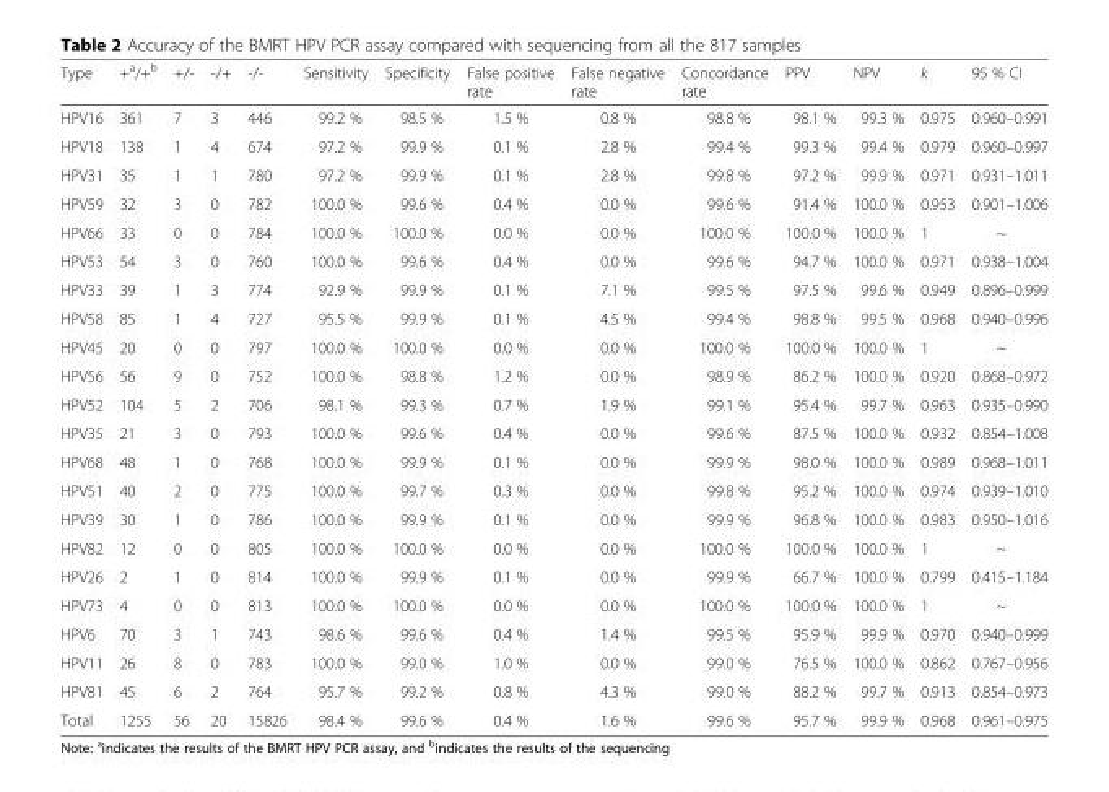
<table><thead><tr><td>Type</td><td>+<sup>a</sup>/+<sup>b</sup></td><td>+/-</td><td>-/+</td><td>-/-</td><td>Sensitivity</td><td>Specificity</td><td>False positive rate</td><td>False negative rate</td><td>Concordance rate</td><td>PPV</td><td>NPV</td><td>k</td><td>95 % CI</td></tr></thead><tbody><tr><td>HPV16</td><td>361</td><td>7</td><td>3</td><td>446</td><td>99.2 %</td><td>98.5 %</td><td>1.5 %</td><td>0.8 %</td><td>98.8 %</td><td>98.1 %</td><td>99.3 %</td><td>0.975</td><td>0.960–0.991</td></tr><tr><td>HPV18</td><td>138</td><td>1</td><td>4</td><td>674</td><td>97.2 %</td><td>99.9 %</td><td>0.1 %</td><td>2.8 %</td><td>99.4 %</td><td>99.3 %</td><td>99.4 %</td><td>0.979</td><td>0.960–0.997</td></tr><tr><td>HPV31</td><td>35</td><td>1</td><td>1</td><td>780</td><td>97.2 %</td><td>99.9 %</td><td>0.1 %</td><td>2.8 %</td><td>99.8 %</td><td>97.2 %</td><td>99.9 %</td><td>0.971</td><td>0.931–1.011</td></tr><tr><td>HPV59</td><td>32</td><td>3</td><td>0</td><td>782</td><td>100.0 %</td><td>99.6 %</td><td>0.4 %</td><td>0.0 %</td><td>99.6 %</td><td>91.4 %</td><td>100.0 %</td><td>0.953</td><td>0.901–1.006</td></tr><tr><td>HPV66</td><td>33</td><td>0</td><td>0</td><td>784</td><td>100.0 %</td><td>100.0 %</td><td>0.0 %</td><td>0.0 %</td><td>100.0 %</td><td>100.0 %</td><td>100.0 %</td><td>1</td><td>~</td></tr><tr><td>HPV53</td><td>54</td><td>3</td><td>0</td><td>760</td><td>100.0 %</td><td>99.6 %</td><td>0.4 %</td><td>0.0 %</td><td>99.6 %</td><td>94.7 %</td><td>100.0 %</td><td>0.971</td><td>0.938–1.004</td></tr><tr><td>HPV33</td><td>39</td><td>1</td><td>3</td><td>774</td><td>92.9 %</td><td>99.9 %</td><td>0.1 %</td><td>7.1 %</td><td>99.5 %</td><td>97.5 %</td><td>99.6 %</td><td>0.949</td><td>0.896–0.999</td></tr><tr><td>HPV58</td><td>85</td><td>1</td><td>4</td><td>727</td><td>95.5 %</td><td>99.9 %</td><td>0.1 %</td><td>4.5 %</td><td>99.4 %</td><td>98.8 %</td><td>99.5 %</td><td>0.968</td><td>0.940–0.996</td></tr><tr><td>HPV45</td><td>20</td><td>0</td><td>0</td><td>797</td><td>100.0 %</td><td>100.0 %</td><td>0.0 %</td><td>0.0 %</td><td>100.0 %</td><td>100.0 %</td><td>100.0 %</td><td>1</td><td>~</td></tr><tr><td>HPV56</td><td>56</td><td>9</td><td>0</td><td>752</td><td>100.0 %</td><td>98.8 %</td><td>1.2 %</td><td>0.0 %</td><td>98.9 %</td><td>86.2 %</td><td>100.0 %</td><td>0.920</td><td>0.868–0.972</td></tr><tr><td>HPV52</td><td>104</td><td>5</td><td>2</td><td>706</td><td>98.1 %</td><td>99.3 %</td><td>0.7 %</td><td>1.9 %</td><td>99.1 %</td><td>95.4 %</td><td>99.7 %</td><td>0.963</td><td>0.935–0.990</td></tr><tr><td>HPV35</td><td>21</td><td>3</td><td>0</td><td>793</td><td>100.0 %</td><td>99.6 %</td><td>0.4 %</td><td>0.0 %</td><td>99.6 %</td><td>87.5 %</td><td>100.0 %</td><td>0.932</td><td>0.854–1.008</td></tr><tr><td>HPV68</td><td>48</td><td>1</td><td>0</td><td>768</td><td>100.0 %</td><td>99.9 %</td><td>0.1 %</td><td>0.0 %</td><td>99.9 %</td><td>98.0 %</td><td>100.0 %</td><td>0.989</td><td>0.968–1.011</td></tr><tr><td>HPV51</td><td>40</td><td>2</td><td>0</td><td>775</td><td>100.0 %</td><td>99.7 %</td><td>0.3 %</td><td>0.0 %</td><td>99.8 %</td><td>95.2 %</td><td>100.0 %</td><td>0.974</td><td>0.939–1.010</td></tr><tr><td>HPV39</td><td>30</td><td>1</td><td>0</td><td>786</td><td>100.0 %</td><td>99.9 %</td><td>0.1 %</td><td>0.0 %</td><td>99.9 %</td><td>96.8 %</td><td>100.0 %</td><td>0.983</td><td>0.950–1.016</td></tr><tr><td>HPV82</td><td>12</td><td>0</td><td>0</td><td>805</td><td>100.0 %</td><td>100.0 %</td><td>0.0 %</td><td>0.0 %</td><td>100.0 %</td><td>100.0 %</td><td>100.0 %</td><td>1</td><td>~</td></tr><tr><td>HPV26</td><td>2</td><td>1</td><td>0</td><td>814</td><td>100.0 %</td><td>99.9 %</td><td>0.1 %</td><td>0.0 %</td><td>99.9 %</td><td>66.7 %</td><td>100.0 %</td><td>0.799</td><td>0.415–1.184</td></tr><tr><td>HPV73</td><td>4</td><td>0</td><td>0</td><td>813</td><td>100.0 %</td><td>100.0 %</td><td>0.0 %</td><td>0.0 %</td><td>100.0 %</td><td>100.0 %</td><td>100.0 %</td><td>1</td><td>~</td></tr><tr><td>HPV6</td><td>70</td><td>3</td><td>1</td><td>743</td><td>98.6 %</td><td>99.6 %</td><td>0.4 %</td><td>1.4 %</td><td>99.5 %</td><td>95.9 %</td><td>99.9 %</td><td>0.970</td><td>0.940–0.999</td></tr><tr><td>HPV11</td><td>26</td><td>8</td><td>0</td><td>783</td><td>100.0 %</td><td>99.0 %</td><td>1.0 %</td><td>0.0 %</td><td>99.0 %</td><td>76.5 %</td><td>100.0 %</td><td>0.862</td><td>0.767–0.956</td></tr><tr><td>HPV81</td><td>45</td><td>6</td><td>2</td><td>764</td><td>95.7 %</td><td>99.2 %</td><td>0.8 %</td><td>4.3 %</td><td>99.0 %</td><td>88.2 %</td><td>99.7 %</td><td>0.913</td><td>0.854–0.973</td></tr><tr><td>Total</td><td>1255</td><td>56</td><td>20</td><td>15826</td><td>98.4 %</td><td>99.6 %</td><td>0.4 %</td><td>1.6 %</td><td>99.6 %</td><td>95.7 %</td><td>99.9 %</td><td>0.968</td><td>0.961–0.975</td></tr></tbody></table>